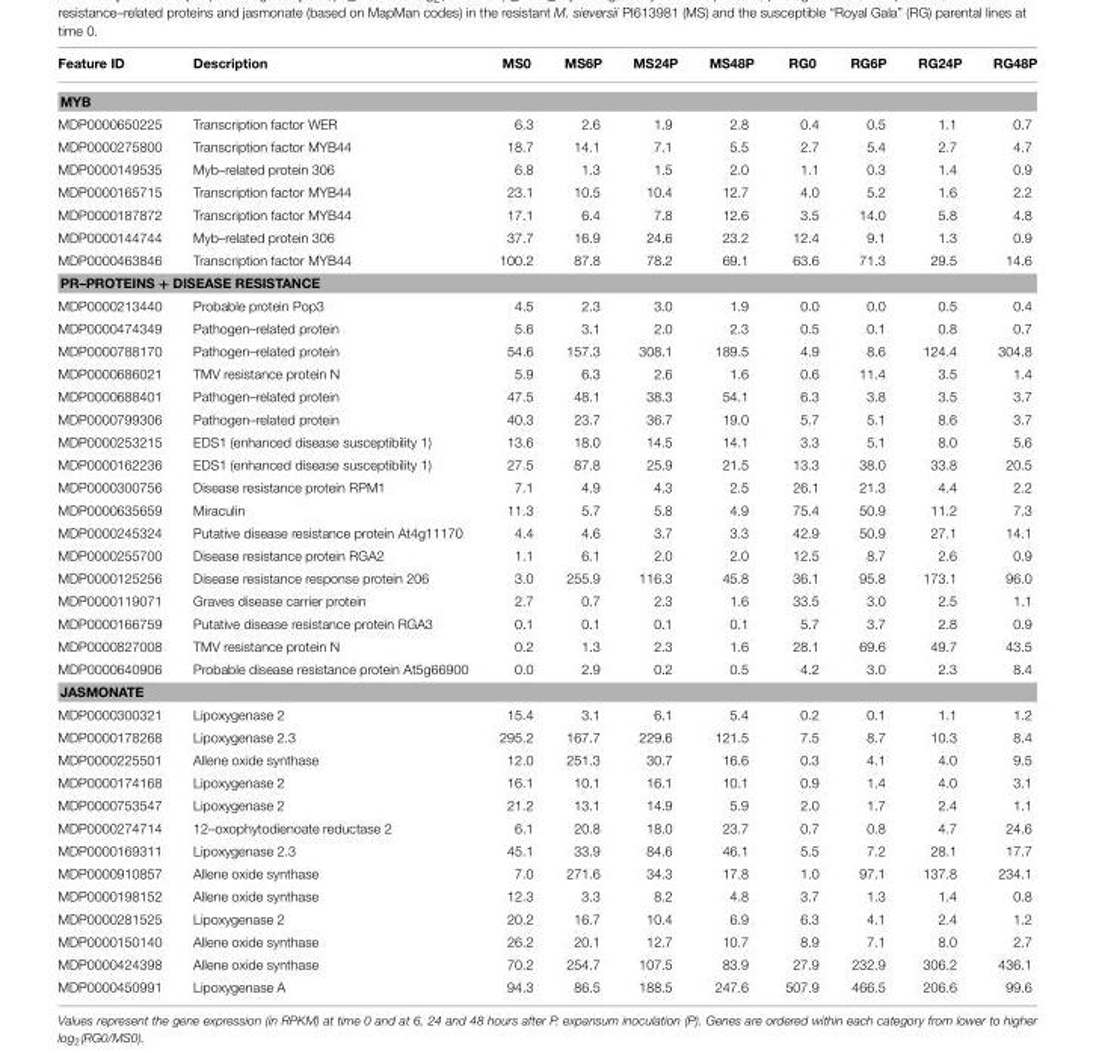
<table><thead><tr><td>Feature ID</td><td>Description</td><td>MS0</td><td>MS6P</td><td>MS24P</td><td>MS48P</td><td>RG0</td><td>RG6P</td><td>RG24P</td><td>RG48P</td></tr></thead><tbody><tr><td colspan="10">MYB</td></tr><tr><td>MDP0000650225</td><td>Transcription factor WER</td><td>6.3</td><td>2.6</td><td>1.9</td><td>2.8</td><td>0.4</td><td>0.5</td><td>1.1</td><td>0.7</td></tr><tr><td>MDP0000275800</td><td>Transcription factor MYB44</td><td>18.7</td><td>14.1</td><td>7.1</td><td>5.5</td><td>2.7</td><td>5.4</td><td>2.7</td><td>4.7</td></tr><tr><td>MDP0000149535</td><td>Myb–related protein 306</td><td>6.8</td><td>1.3</td><td>1.5</td><td>2.0</td><td>1.1</td><td>0.3</td><td>1.4</td><td>0.9</td></tr><tr><td>MDP0000165715</td><td>Transcription factor MYB44</td><td>23.1</td><td>10.5</td><td>10.4</td><td>12.7</td><td>4.0</td><td>5.2</td><td>1.6</td><td>2.2</td></tr><tr><td>MDP0000187872</td><td>Transcription factor MYB44</td><td>17.1</td><td>6.4</td><td>7.8</td><td>12.6</td><td>3.5</td><td>14.0</td><td>5.8</td><td>4.8</td></tr><tr><td>MDP0000144744</td><td>Myb–related protein 306</td><td>37.7</td><td>16.9</td><td>24.6</td><td>23.2</td><td>12.4</td><td>9.1</td><td>1.3</td><td>0.9</td></tr><tr><td>MDP0000463846</td><td>Transcription factor MYB44</td><td>100.2</td><td>87.8</td><td>78.2</td><td>69.1</td><td>63.6</td><td>71.3</td><td>29.5</td><td>14.6</td></tr><tr><td colspan="10">PR–PROTEINS + DISEASE RESISTANCE</td></tr><tr><td>MDP0000213440</td><td>Probable protein Pop3</td><td>4.5</td><td>2.3</td><td>3.0</td><td>1.9</td><td>0.0</td><td>0.0</td><td>0.5</td><td>0.4</td></tr><tr><td>MDP0000474349</td><td>Pathogen–related protein</td><td>5.6</td><td>3.1</td><td>2.0</td><td>2.3</td><td>0.5</td><td>0.1</td><td>0.8</td><td>0.7</td></tr><tr><td>MDP0000788170</td><td>Pathogen–related protein</td><td>54.6</td><td>157.3</td><td>308.1</td><td>189.5</td><td>4.9</td><td>8.6</td><td>124.4</td><td>304.8</td></tr><tr><td>MDP0000686021</td><td>TMV resistance protein N</td><td>5.9</td><td>6.3</td><td>2.6</td><td>1.6</td><td>0.6</td><td>11.4</td><td>3.5</td><td>1.4</td></tr><tr><td>MDP0000688401</td><td>Pathogen–related protein</td><td>47.5</td><td>48.1</td><td>38.3</td><td>54.1</td><td>6.3</td><td>3.8</td><td>3.5</td><td>3.7</td></tr><tr><td>MDP0000799306</td><td>Pathogen–related protein</td><td>40.3</td><td>23.7</td><td>36.7</td><td>19.0</td><td>5.7</td><td>5.1</td><td>8.6</td><td>3.7</td></tr><tr><td>MDP0000253215</td><td>EDS1 (enhanced disease susceptibility 1)</td><td>13.6</td><td>18.0</td><td>14.5</td><td>14.1</td><td>3.3</td><td>5.1</td><td>8.0</td><td>5.6</td></tr><tr><td>MDP0000162236</td><td>EDS1 (enhanced disease susceptibility 1)</td><td>27.5</td><td>87.8</td><td>25.9</td><td>21.5</td><td>13.3</td><td>38.0</td><td>33.8</td><td>20.5</td></tr><tr><td>MDP0000300756</td><td>Disease resistance protein RPM1</td><td>7.1</td><td>4.9</td><td>4.3</td><td>2.5</td><td>26.1</td><td>21.3</td><td>4.4</td><td>2.2</td></tr><tr><td>MDP0000635659</td><td>Miraculin</td><td>11.3</td><td>5.7</td><td>5.8</td><td>4.9</td><td>75.4</td><td>50.9</td><td>11.2</td><td>7.3</td></tr><tr><td>MDP0000245324</td><td>Putative disease resistance protein At4g11170</td><td>4.4</td><td>4.6</td><td>3.7</td><td>3.3</td><td>42.9</td><td>50.9</td><td>27.1</td><td>14.1</td></tr><tr><td>MDP0000255700</td><td>Disease resistance protein RGA2</td><td>1.1</td><td>6.1</td><td>2.0</td><td>2.0</td><td>12.5</td><td>8.7</td><td>2.6</td><td>0.9</td></tr><tr><td>MDP0000125256</td><td>Disease resistance response protein 206</td><td>3.0</td><td>255.9</td><td>116.3</td><td>45.8</td><td>36.1</td><td>95.8</td><td>173.1</td><td>96.0</td></tr><tr><td>MDP0000119071</td><td>Graves disease carrier protein</td><td>2.7</td><td>0.7</td><td>2.3</td><td>1.6</td><td>33.5</td><td>3.0</td><td>2.5</td><td>1.1</td></tr><tr><td>MDP0000166759</td><td>Putative disease resistance protein RGA3</td><td>0.1</td><td>0.1</td><td>0.1</td><td>0.1</td><td>5.7</td><td>3.7</td><td>2.8</td><td>0.9</td></tr><tr><td>MDP0000827008</td><td>TMV resistance protein N</td><td>0.2</td><td>1.3</td><td>2.3</td><td>1.6</td><td>28.1</td><td>69.6</td><td>49.7</td><td>43.5</td></tr><tr><td>MDP0000640906</td><td>Probable disease resistance protein At5g66900</td><td>0.0</td><td>2.9</td><td>0.2</td><td>0.5</td><td>4.2</td><td>3.0</td><td>2.3</td><td>8.4</td></tr><tr><td colspan="10">JASMONATE</td></tr><tr><td>MDP0000300321</td><td>Lipoxygenase 2</td><td>15.4</td><td>3.1</td><td>6.1</td><td>5.4</td><td>0.2</td><td>0.1</td><td>1.1</td><td>1.2</td></tr><tr><td>MDP0000178268</td><td>Lipoxygenase 2.3</td><td>295.2</td><td>167.7</td><td>229.6</td><td>121.5</td><td>7.5</td><td>8.7</td><td>10.3</td><td>8.4</td></tr><tr><td>MDP0000225501</td><td>Allene oxide synthase</td><td>12.0</td><td>251.3</td><td>30.7</td><td>16.6</td><td>0.3</td><td>4.1</td><td>4.0</td><td>9.5</td></tr><tr><td>MDP0000174168</td><td>Lipoxygenase 2</td><td>16.1</td><td>10.1</td><td>16.1</td><td>10.1</td><td>0.9</td><td>1.4</td><td>4.0</td><td>3.1</td></tr><tr><td>MDP0000753547</td><td>Lipoxygenase 2</td><td>21.2</td><td>13.1</td><td>14.9</td><td>5.9</td><td>2.0</td><td>1.7</td><td>2.4</td><td>1.1</td></tr><tr><td>MDP0000274714</td><td>12–oxophytodienoate reductase 2</td><td>6.1</td><td>20.8</td><td>18.0</td><td>23.7</td><td>0.7</td><td>0.8</td><td>4.7</td><td>24.6</td></tr><tr><td>MDP0000169311</td><td>Lipoxygenase 2.3</td><td>45.1</td><td>33.9</td><td>84.6</td><td>46.1</td><td>5.5</td><td>7.2</td><td>28.1</td><td>17.7</td></tr><tr><td>MDP0000910857</td><td>Allene oxide synthase</td><td>7.0</td><td>271.6</td><td>34.3</td><td>17.8</td><td>1.0</td><td>97.1</td><td>137.8</td><td>234.1</td></tr><tr><td>MDP0000198152</td><td>Allene oxide synthase</td><td>12.3</td><td>3.3</td><td>8.2</td><td>4.8</td><td>3.7</td><td>1.3</td><td>1.4</td><td>0.8</td></tr><tr><td>MDP0000281525</td><td>Lipoxygenase 2</td><td>20.2</td><td>16.7</td><td>10.4</td><td>6.9</td><td>6.3</td><td>4.1</td><td>2.4</td><td>1.2</td></tr><tr><td>MDP0000150140</td><td>Allene oxide synthase</td><td>26.2</td><td>20.1</td><td>12.7</td><td>10.7</td><td>8.9</td><td>7.1</td><td>8.0</td><td>2.7</td></tr><tr><td>MDP0000424398</td><td>Allene oxide synthase</td><td>70.2</td><td>254.7</td><td>107.5</td><td>83.9</td><td>27.9</td><td>232.9</td><td>306.2</td><td>436.1</td></tr><tr><td>MDP0000450991</td><td>Lipoxygenase A</td><td>94.3</td><td>86.5</td><td>188.5</td><td>247.6</td><td>507.9</td><td>466.5</td><td>206.6</td><td>99.6</td></tr></tbody></table>